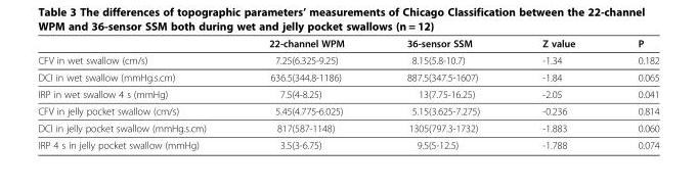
<table><thead><tr><td></td><td>22-channel WPM</td><td>36-sensor SSM</td><td>Z value</td><td>P</td></tr></thead><tbody><tr><td>CFV in wet swallow (cm/s)</td><td>7.25(6.325-9.25)</td><td>8.15(5.8-10.7)</td><td>-1.34</td><td>0.182</td></tr><tr><td>DCI in wet swallow (mmHg.s.cm)</td><td>636.5(344.8-1186)</td><td>887.5(347.5-1607)</td><td>-1.84</td><td>0.065</td></tr><tr><td>IRP in wet swallow 4 s (mmHg)</td><td>7.5(4-8.25)</td><td>13(7.75-16.25)</td><td>-2.05</td><td>0.041</td></tr><tr><td>CFV in jelly pocket swallow (cm/s)</td><td>5.45(4.775-6.025)</td><td>5.15(3.625-7.275)</td><td>-0.236</td><td>0.814</td></tr><tr><td>DCI in jelly pocket swallow (mmHg.s.cm)</td><td>817(587-1148)</td><td>1305(797.3-1732)</td><td>-1.883</td><td>0.060</td></tr><tr><td>IRP 4 s in jelly pocket swallow (mmHg)</td><td>3.5(3-6.75)</td><td>9.5(5-12.5)</td><td>-1.788</td><td>0.074</td></tr></tbody></table>